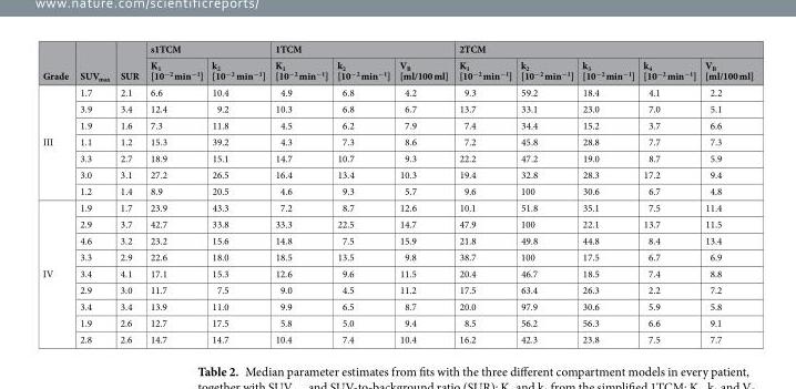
<table><thead><tr><td rowspan="2">Grade</td><td rowspan="2">SUV<sub>max</sub></td><td rowspan="2">SUR</td><td colspan="2">s1TCM</td><td colspan="3">1TCM</td><td colspan="5">2TCM</td></tr><tr><td>K<sub>1</sub> [10<sup>−2</sup> min<sup>−1</sup>]</td><td>k<sub>2</sub> [10<sup>−2</sup> min<sup>−1</sup>]</td><td>K<sub>1</sub> [10<sup>−2</sup> min<sup>−1</sup>]</td><td>k<sub>2</sub> [10<sup>−2</sup> min<sup>−1</sup>]</td><td>V<sub>B</sub> [ml/100 ml]</td><td>K<sub>1</sub> [10<sup>−2</sup> min<sup>−1</sup>]</td><td>k<sub>2</sub> [10<sup>−2</sup> min<sup>−1</sup>]</td><td>k<sub>3</sub> [10<sup>−2</sup> min<sup>−1</sup>]</td><td>k<sub>4</sub> [10<sup>−2</sup> min<sup>−1</sup>]</td><td>V<sub>B</sub> [ml/100 ml]</td></tr></thead><tbody><tr><td rowspan="7">III</td><td>1.7</td><td>2.1</td><td>6.6</td><td>10.4</td><td>4.9</td><td>6.8</td><td>4.2</td><td>9.3</td><td>59.2</td><td>18.4</td><td>4.1</td><td>2.2</td></tr><tr><td>3.9</td><td>3.4</td><td>12.4</td><td>9.2</td><td>10.3</td><td>6.8</td><td>6.7</td><td>13.7</td><td>33.1</td><td>23.0</td><td>7.0</td><td>5.1</td></tr><tr><td>1.9</td><td>1.6</td><td>7.3</td><td>11.8</td><td>4.5</td><td>6.2</td><td>7.9</td><td>7.4</td><td>34.4</td><td>15.2</td><td>3.7</td><td>6.6</td></tr><tr><td>1.1</td><td>1.2</td><td>15.3</td><td>39.2</td><td>4.3</td><td>7.3</td><td>8.6</td><td>7.2</td><td>45.8</td><td>28.8</td><td>7.7</td><td>7.3</td></tr><tr><td>3.3</td><td>2.7</td><td>18.9</td><td>15.1</td><td>14.7</td><td>10.7</td><td>9.3</td><td>22.2</td><td>47.2</td><td>19.0</td><td>8.7</td><td>5.9</td></tr><tr><td>3.0</td><td>3.1</td><td>27.2</td><td>26.5</td><td>16.4</td><td>13.4</td><td>10.3</td><td>19.4</td><td>32.8</td><td>28.3</td><td>17.2</td><td>9.4</td></tr><tr><td>1.2</td><td>1.4</td><td>8.9</td><td>20.5</td><td>4.6</td><td>9.3</td><td>5.7</td><td>9.6</td><td>100</td><td>30.6</td><td>6.7</td><td>4.8</td></tr><tr><td rowspan="9">IV</td><td>1.9</td><td>1.7</td><td>23.9</td><td>43.3</td><td>7.2</td><td>8.7</td><td>12.6</td><td>10.1</td><td>51.8</td><td>35.1</td><td>7.5</td><td>11.4</td></tr><tr><td>2.9</td><td>3.7</td><td>42.7</td><td>33.8</td><td>33.3</td><td>22.5</td><td>14.7</td><td>47.9</td><td>100</td><td>22.1</td><td>13.7</td><td>11.5</td></tr><tr><td>4.6</td><td>3.2</td><td>23.2</td><td>15.6</td><td>14.8</td><td>7.5</td><td>15.9</td><td>21.8</td><td>49.8</td><td>44.8</td><td>8.4</td><td>13.4</td></tr><tr><td>3.3</td><td>2.9</td><td>22.6</td><td>18.0</td><td>18.5</td><td>13.5</td><td>9.8</td><td>38.7</td><td>100</td><td>17.5</td><td>6.7</td><td>6.9</td></tr><tr><td>3.4</td><td>4.1</td><td>17.1</td><td>15.3</td><td>12.6</td><td>9.6</td><td>11.5</td><td>20.4</td><td>46.7</td><td>18.5</td><td>7.4</td><td>8.8</td></tr><tr><td>2.9</td><td>3.0</td><td>11.7</td><td>7.5</td><td>9.0</td><td>4.5</td><td>11.2</td><td>17.5</td><td>63.4</td><td>26.3</td><td>2.2</td><td>7.2</td></tr><tr><td>3.4</td><td>3.4</td><td>13.9</td><td>11.0</td><td>9.9</td><td>6.5</td><td>8.7</td><td>20.0</td><td>97.9</td><td>30.6</td><td>5.9</td><td>5.8</td></tr><tr><td>1.9</td><td>2.6</td><td>12.7</td><td>17.5</td><td>5.8</td><td>5.0</td><td>9.4</td><td>8.5</td><td>56.2</td><td>56.3</td><td>6.6</td><td>9.1</td></tr><tr><td>2.8</td><td>2.6</td><td>14.7</td><td>14.7</td><td>10.4</td><td>7.4</td><td>10.4</td><td>16.2</td><td>42.3</td><td>23.8</td><td>7.5</td><td>7.7</td></tr></tbody></table>